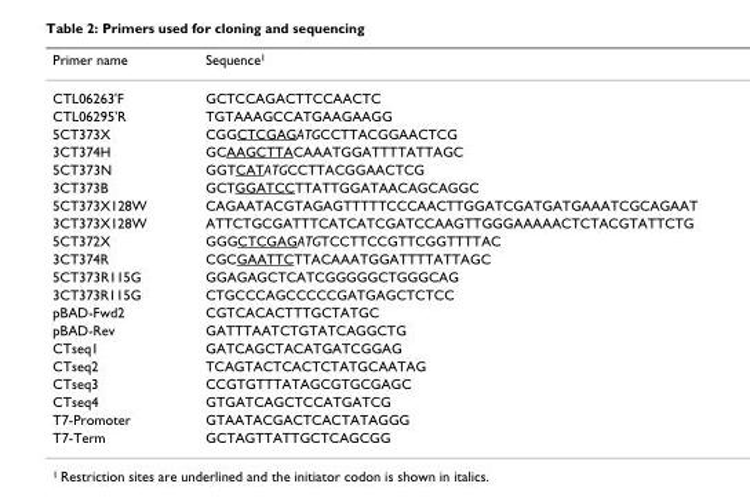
<table><thead><tr><td>Primer name</td><td>Sequence<sup>1</sup></td></tr></thead><tbody><tr><td>CTL06263&#x27;F</td><td>GCTCCAGACTTCCAACTC</td></tr><tr><td>CTL06295&#x27;R</td><td>TGTAAAGCCATGAAGAAGG</td></tr><tr><td>5CT373X</td><td>CGGCTCGAGATGCCTTACGGAACTCG</td></tr><tr><td>3CT374H</td><td>GCAAGCTTACAAATGGATTTTATTAGC</td></tr><tr><td>5CT373N</td><td>GGTCATATGCCTTACGGAACTCG</td></tr><tr><td>3CT373B</td><td>GCTGGATCCTTATTGGATAACAGCAGGC</td></tr><tr><td>5CT373X128W</td><td>CAGAATACGTAGAGTTTTTCCCAACTTGGATCGATGATGAAATCGCAGAAT</td></tr><tr><td>3CT373X128W</td><td>ATTCTGCGATTTCATCATCGATCCAAGTTGGGAAAAACTCTACGTATTCTG</td></tr><tr><td>5CT372X</td><td>GGGCTCGAGATGTCCTTCCGTTCGGTTTTAC</td></tr><tr><td>3CT374R</td><td>CGCGAATTCTTACAAATGGATTTTATTAGC</td></tr><tr><td>5CT373R115G</td><td>GGAGAGCTCATCGGGGGCTGGGCAG</td></tr><tr><td>3CT373R115G</td><td>CTGCCCAGCCCCCGATGAGCTCTCC</td></tr><tr><td>pBAD-Fwd2</td><td>CGTCACACTTTGCTATGC</td></tr><tr><td>pBAD-Rev</td><td>GATTTAATCTGTATCAGGCTG</td></tr><tr><td>CTseq1</td><td>GATCAGCTACATGATCGGAG</td></tr><tr><td>CTseq2</td><td>TCAGTACTCACTCTATGCAATAG</td></tr><tr><td>CTseq3</td><td>CCGTGTTTATAGCGTGCGAGC</td></tr><tr><td>CTseq4</td><td>GTGATCAGCTCCATGATCG</td></tr><tr><td>T7-Promoter</td><td>GTAATACGACTCACTATAGGG</td></tr><tr><td>T7-Term</td><td>GCTAGTTATTGCTCAGCGG</td></tr></tbody></table>